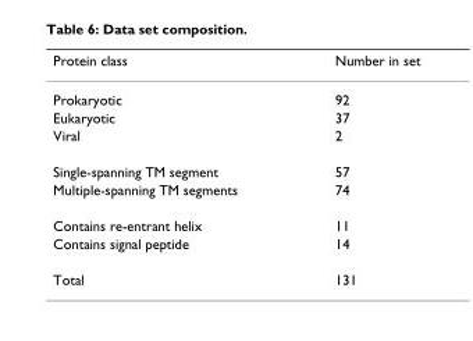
<table><thead><tr><td>Protein class</td><td>Number in set</td></tr></thead><tbody><tr><td>Prokaryotic</td><td>92</td></tr><tr><td>Eukaryotic</td><td>37</td></tr><tr><td>Viral</td><td>2</td></tr><tr><td>Single-spanning TM segment</td><td>57</td></tr><tr><td>Multiple-spanning TM segments</td><td>74</td></tr><tr><td>Contains re-entrant helix</td><td>11</td></tr><tr><td>Contains signal peptide</td><td>14</td></tr><tr><td>Total</td><td>131</td></tr></tbody></table>